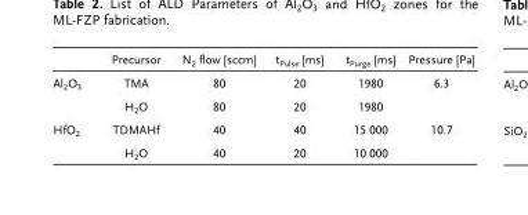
<table><thead><tr><td></td><td>Precursor</td><td>N<sub>2</sub> flow [sccm]</td><td>t<sub>Pulse</sub> [ms]</td><td>t<sub>Purge</sub> [ms]</td><td>Pressure [Pa]</td></tr></thead><tbody><tr><td rowspan="2">Al<sub>2</sub>O<sub>3</sub></td><td>TMA</td><td>80</td><td>20</td><td>1980</td><td>6.3</td></tr><tr><td>H<sub>2</sub>O</td><td>80</td><td>20</td><td>1980</td><td></td></tr><tr><td rowspan="2">HfO<sub>2</sub></td><td>TDMAHf</td><td>40</td><td>40</td><td>15 000</td><td>10.7</td></tr><tr><td>H<sub>2</sub>O</td><td>40</td><td>20</td><td>10 000</td><td></td></tr></tbody></table>